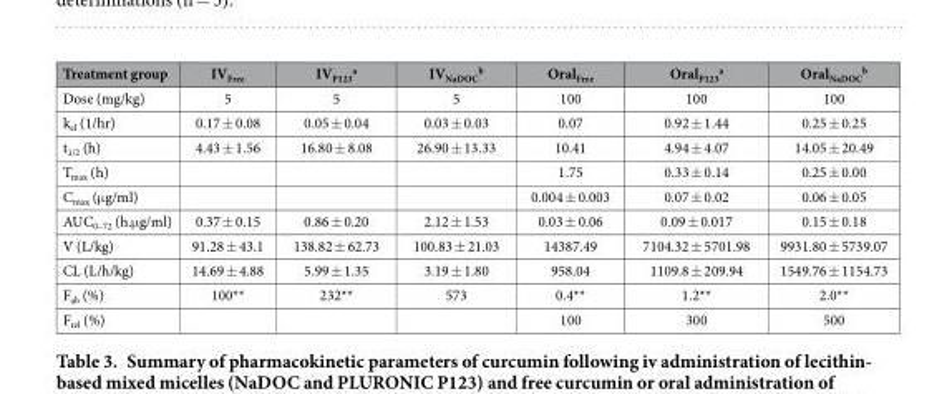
<table><thead><tr><td>Treatment group</td><td>IV<sub>Free</sub></td><td>IV<sub>P123</sub> <sup>a</sup></td><td>IV<sub>NaDOC</sub> <sup>b</sup></td><td>Oral<sub>Free</sub></td><td>Oral<sub>P123</sub> <sup>a</sup></td><td>Oral<sub>NaDOC</sub> <sup>b</sup></td></tr></thead><tbody><tr><td>Dose (mg/kg)</td><td>5</td><td>5</td><td>5</td><td>100</td><td>100</td><td>100</td></tr><tr><td>k<sub>el</sub> (1/hr)</td><td>0.17 ± 0.08</td><td>0.05 ± 0.04</td><td>0.03 ± 0.03</td><td>0.07</td><td>0.92 ± 1.44</td><td>0.25 ± 0.25</td></tr><tr><td>t<sub>1/2</sub> (h)</td><td>4.43 ± 1.56</td><td>16.80 ± 8.08</td><td>26.90 ± 13.33</td><td>10.41</td><td>4.94 ± 4.07</td><td>14.05 ± 20.49</td></tr><tr><td>T<sub>max</sub> (h)</td><td></td><td></td><td></td><td>1.75</td><td>0.33 ± 0.14</td><td>0.25 ± 0.00</td></tr><tr><td>C<sub>max</sub> (μ g/ml)</td><td></td><td></td><td></td><td>0.004 ± 0.003</td><td>0.07 ± 0.02</td><td>0.06 ± 0.05</td></tr><tr><td>AUC<sub>0–72</sub> (h.μ g/ml)</td><td>0.37 ± 0.15</td><td>0.86 ± 0.20</td><td>2.12 ± 1.53</td><td>0.03 ± 0.06</td><td>0.09 ± 0.017</td><td>0.15 ± 0.18</td></tr><tr><td>V (L/kg)</td><td>91.28 ± 43.1</td><td>138.82 ± 62.73</td><td>100.83 ± 21.03</td><td>14387.49</td><td>7104.32 ± 5701.98</td><td>9931.80 ± 5739.07</td></tr><tr><td>CL (L/h/kg)</td><td>14.69 ± 4.88</td><td>5.99 ± 1.35</td><td>3.19 ± 1.80</td><td>958.04</td><td>1109.8 ± 209.94</td><td>1549.76 ± 1154.73</td></tr><tr><td>F<sub>ab</sub> (%)</td><td>100**</td><td>232**</td><td>573</td><td>0.4**</td><td>1.2**</td><td>2.0**</td></tr><tr><td>F<sub>rel</sub> (%)</td><td></td><td></td><td></td><td>100</td><td>300</td><td>500</td></tr></tbody></table>